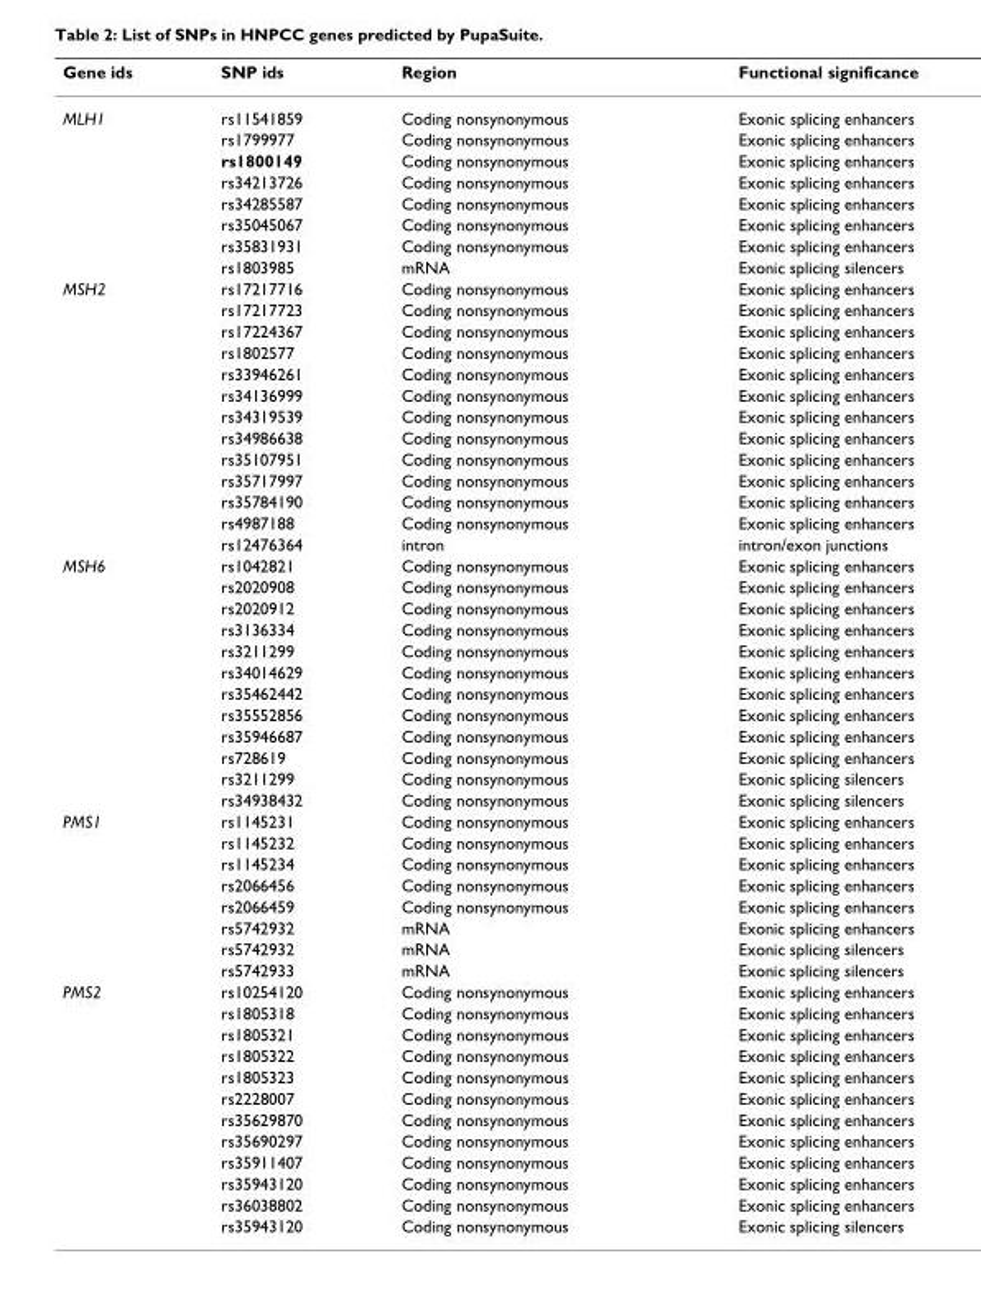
<table><thead><tr><td>Gene ids</td><td>SNP ids</td><td>Region</td><td>Functional significance</td></tr></thead><tbody><tr><td rowspan="8">MLH1</td><td>rs11541859</td><td>Coding nonsynonymous</td><td>Exonic splicing enhancers</td></tr><tr><td>rs1799977</td><td>Coding nonsynonymous</td><td>Exonic splicing enhancers</td></tr><tr><td>rs1800149</td><td>Coding nonsynonymous</td><td>Exonic splicing enhancers</td></tr><tr><td>rs34213726</td><td>Coding nonsynonymous</td><td>Exonic splicing enhancers</td></tr><tr><td>rs34285587</td><td>Coding nonsynonymous</td><td>Exonic splicing enhancers</td></tr><tr><td>rs35045067</td><td>Coding nonsynonymous</td><td>Exonic splicing enhancers</td></tr><tr><td>rs35831931</td><td>Coding nonsynonymous</td><td>Exonic splicing enhancers</td></tr><tr><td>rs1803985</td><td>mRNA</td><td>Exonic splicing silencers</td></tr><tr><td rowspan="13">MSH2</td><td>rs17217716</td><td>Coding nonsynonymous</td><td>Exonic splicing enhancers</td></tr><tr><td>rs17217723</td><td>Coding nonsynonymous</td><td>Exonic splicing enhancers</td></tr><tr><td>rs17224367</td><td>Coding nonsynonymous</td><td>Exonic splicing enhancers</td></tr><tr><td>rs1802577</td><td>Coding nonsynonymous</td><td>Exonic splicing enhancers</td></tr><tr><td>rs33946261</td><td>Coding nonsynonymous</td><td>Exonic splicing enhancers</td></tr><tr><td>rs34136999</td><td>Coding nonsynonymous</td><td>Exonic splicing enhancers</td></tr><tr><td>rs34319539</td><td>Coding nonsynonymous</td><td>Exonic splicing enhancers</td></tr><tr><td>rs34986638</td><td>Coding nonsynonymous</td><td>Exonic splicing enhancers</td></tr><tr><td>rs35107951</td><td>Coding nonsynonymous</td><td>Exonic splicing enhancers</td></tr><tr><td>rs35717997</td><td>Coding nonsynonymous</td><td>Exonic splicing enhancers</td></tr><tr><td>rs35784190</td><td>Coding nonsynonymous</td><td>Exonic splicing enhancers</td></tr><tr><td>rs4987188</td><td>Coding nonsynonymous</td><td>Exonic splicing enhancers</td></tr><tr><td>rs12476364</td><td>intron</td><td>intron/exon junctions</td></tr><tr><td rowspan="12">MSH6</td><td>rs1042821</td><td>Coding nonsynonymous</td><td>Exonic splicing enhancers</td></tr><tr><td>rs2020908</td><td>Coding nonsynonymous</td><td>Exonic splicing enhancers</td></tr><tr><td>rs2020912</td><td>Coding nonsynonymous</td><td>Exonic splicing enhancers</td></tr><tr><td>rs3136334</td><td>Coding nonsynonymous</td><td>Exonic splicing enhancers</td></tr><tr><td>rs3211299</td><td>Coding nonsynonymous</td><td>Exonic splicing enhancers</td></tr><tr><td>rs34014629</td><td>Coding nonsynonymous</td><td>Exonic splicing enhancers</td></tr><tr><td>rs35462442</td><td>Coding nonsynonymous</td><td>Exonic splicing enhancers</td></tr><tr><td>rs35552856</td><td>Coding nonsynonymous</td><td>Exonic splicing enhancers</td></tr><tr><td>rs35946687</td><td>Coding nonsynonymous</td><td>Exonic splicing enhancers</td></tr><tr><td>rs728619</td><td>Coding nonsynonymous</td><td>Exonic splicing enhancers</td></tr><tr><td>rs3211299</td><td>Coding nonsynonymous</td><td>Exonic splicing silencers</td></tr><tr><td>rs34938432</td><td>Coding nonsynonymous</td><td>Exonic splicing silencers</td></tr><tr><td rowspan="8">PMS1</td><td>rs1145231</td><td>Coding nonsynonymous</td><td>Exonic splicing enhancers</td></tr><tr><td>rs1145232</td><td>Coding nonsynonymous</td><td>Exonic splicing enhancers</td></tr><tr><td>rs1145234</td><td>Coding nonsynonymous</td><td>Exonic splicing enhancers</td></tr><tr><td>rs2066456</td><td>Coding nonsynonymous</td><td>Exonic splicing enhancers</td></tr><tr><td>rs2066459</td><td>Coding nonsynonymous</td><td>Exonic splicing enhancers</td></tr><tr><td>rs5742932</td><td>mRNA</td><td>Exonic splicing enhancers</td></tr><tr><td>rs5742932</td><td>mRNA</td><td>Exonic splicing silencers</td></tr><tr><td>rs5742933</td><td>mRNA</td><td>Exonic splicing silencers</td></tr><tr><td rowspan="12">PMS2</td><td>rs10254120</td><td>Coding nonsynonymous</td><td>Exonic splicing enhancers</td></tr><tr><td>rs1805318</td><td>Coding nonsynonymous</td><td>Exonic splicing enhancers</td></tr><tr><td>rs1805321</td><td>Coding nonsynonymous</td><td>Exonic splicing enhancers</td></tr><tr><td>rs1805322</td><td>Coding nonsynonymous</td><td>Exonic splicing enhancers</td></tr><tr><td>rs1805323</td><td>Coding nonsynonymous</td><td>Exonic splicing enhancers</td></tr><tr><td>rs2228007</td><td>Coding nonsynonymous</td><td>Exonic splicing enhancers</td></tr><tr><td>rs35629870</td><td>Coding nonsynonymous</td><td>Exonic splicing enhancers</td></tr><tr><td>rs35690297</td><td>Coding nonsynonymous</td><td>Exonic splicing enhancers</td></tr><tr><td>rs35911407</td><td>Coding nonsynonymous</td><td>Exonic splicing enhancers</td></tr><tr><td>rs35943120</td><td>Coding nonsynonymous</td><td>Exonic splicing enhancers</td></tr><tr><td>rs36038802</td><td>Coding nonsynonymous</td><td>Exonic splicing enhancers</td></tr><tr><td>rs35943120</td><td>Coding nonsynonymous</td><td>Exonic splicing silencers</td></tr></tbody></table>